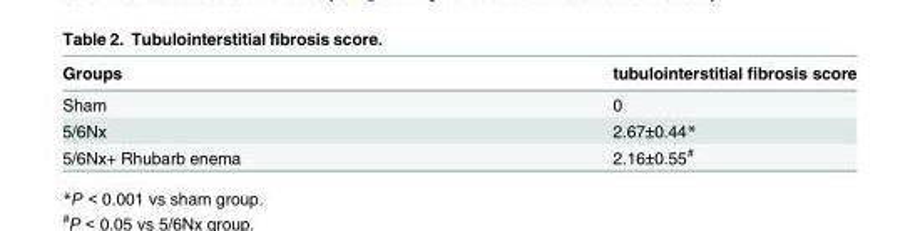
<table><thead><tr><td>Groups</td><td>tubulointerstitial fibrosis score</td></tr></thead><tbody><tr><td>Sham</td><td>0</td></tr><tr><td>5/6Nx</td><td>2.67±0.44*</td></tr><tr><td>5/6Nx+ Rhubarb enema</td><td>2.16±0.55<sup>#</sup></td></tr></tbody></table>